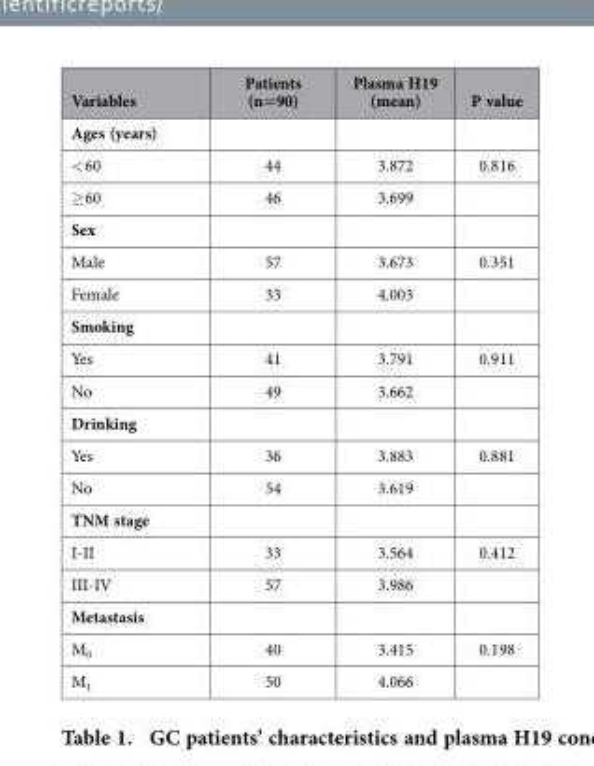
<table><thead><tr><td>Variables</td><td>Patients (n=90)</td><td>Plasma H19 (mean)</td><td>P value</td></tr></thead><tbody><tr><td colspan="4">Ages (years)</td></tr><tr><td>&lt; 60</td><td>44</td><td>3.872</td><td>0.816</td></tr><tr><td>≥ 60</td><td>46</td><td>3.699</td><td></td></tr><tr><td colspan="4">Sex</td></tr><tr><td>Male</td><td>57</td><td>3.673</td><td>0.351</td></tr><tr><td>Female</td><td>33</td><td>4.003</td><td></td></tr><tr><td colspan="4">Smoking</td></tr><tr><td>Yes</td><td>41</td><td>3.791</td><td>0.911</td></tr><tr><td>No</td><td>49</td><td>3.662</td><td></td></tr><tr><td colspan="4">Drinking</td></tr><tr><td>Yes</td><td>36</td><td>3.883</td><td>0.881</td></tr><tr><td>No</td><td>54</td><td>3.619</td><td></td></tr><tr><td colspan="4">TNM stage</td></tr><tr><td>I-II</td><td>33</td><td>3.564</td><td>0.412</td></tr><tr><td>III-IV</td><td>57</td><td>3.986</td><td></td></tr><tr><td colspan="4">Metastasis</td></tr><tr><td>M<sub>0</sub></td><td>40</td><td>3.415</td><td>0.198</td></tr><tr><td>M<sub>1</sub></td><td>50</td><td>4.066</td><td></td></tr></tbody></table>